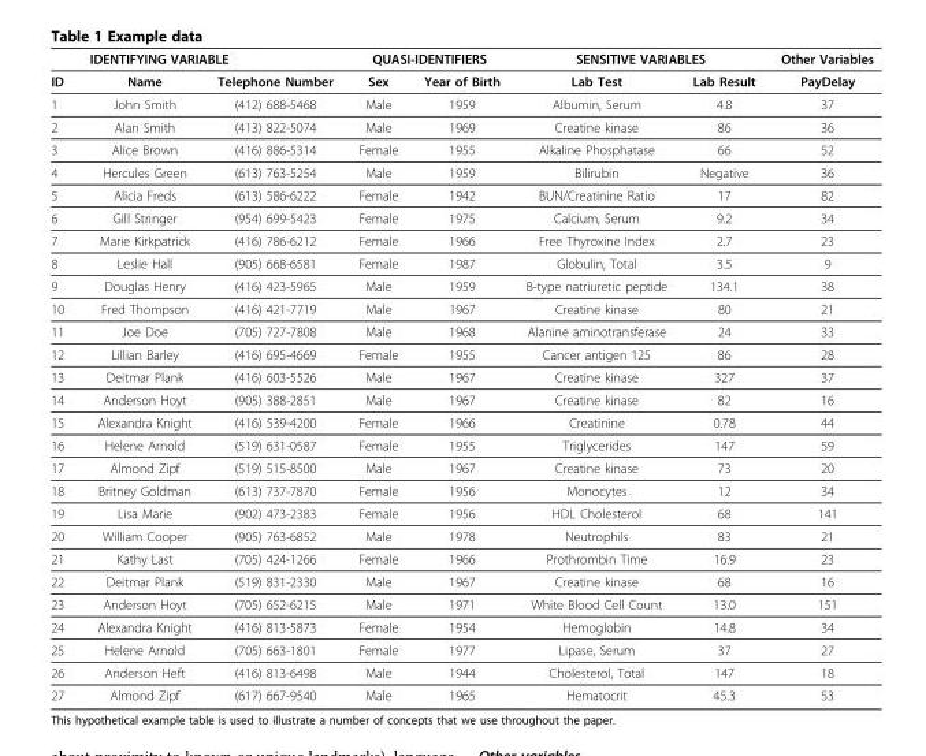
<table><thead><tr><td rowspan="2">ID</td><td colspan="2">IDENTIFYING VARIABLE</td><td colspan="2">QUASI-IDENTIFIERS</td><td colspan="2">SENSITIVE VARIABLES</td><td rowspan="2">Other Variables PayDelay</td></tr><tr><td>Name</td><td>Telephone Number</td><td>Sex</td><td>Year of Birth</td><td>Lab Test</td><td>Lab Result</td></tr></thead><tbody><tr><td>1</td><td>John Smith</td><td>(412) 688-5468</td><td>Male</td><td>1959</td><td>Albumin, Serum</td><td>4.8</td><td>37</td></tr><tr><td>2</td><td>Alan Smith</td><td>(413) 822-5074</td><td>Male</td><td>1969</td><td>Creatine kinase</td><td>86</td><td>36</td></tr><tr><td>3</td><td>Alice Brown</td><td>(416) 886-5314</td><td>Female</td><td>1955</td><td>Alkaline Phosphatase</td><td>66</td><td>52</td></tr><tr><td>4</td><td>Hercules Green</td><td>(613) 763-5254</td><td>Male</td><td>1959</td><td>Bilirubin</td><td>Negative</td><td>36</td></tr><tr><td>5</td><td>Alicia Freds</td><td>(613) 586-6222</td><td>Female</td><td>1942</td><td>BUN/Creatinine Ratio</td><td>17</td><td>82</td></tr><tr><td>6</td><td>Gill Stringer</td><td>(954) 699-5423</td><td>Female</td><td>1975</td><td>Calcium, Serum</td><td>9.2</td><td>34</td></tr><tr><td>7</td><td>Marie Kirkpatrick</td><td>(416) 786-6212</td><td>Female</td><td>1966</td><td>Free Thyroxine Index</td><td>2.7</td><td>23</td></tr><tr><td>8</td><td>Leslie Hall</td><td>(905) 668-6581</td><td>Female</td><td>1987</td><td>Globulin, Total</td><td>3.5</td><td>9</td></tr><tr><td>9</td><td>Douglas Henry</td><td>(416) 423-5965</td><td>Male</td><td>1959</td><td>B-type natriuretic peptide</td><td>134.1</td><td>38</td></tr><tr><td>10</td><td>Fred Thompson</td><td>(416) 421-7719</td><td>Male</td><td>1967</td><td>Creatine kinase</td><td>80</td><td>21</td></tr><tr><td>11</td><td>Joe Doe</td><td>(705) 727-7808</td><td>Male</td><td>1968</td><td>Alanine aminotransferase</td><td>24</td><td>33</td></tr><tr><td>12</td><td>Lillian Barley</td><td>(416) 695-4669</td><td>Female</td><td>1955</td><td>Cancer antigen 125</td><td>86</td><td>28</td></tr><tr><td>13</td><td>Deitmar Plank</td><td>(416) 603-5526</td><td>Male</td><td>1967</td><td>Creatine kinase</td><td>327</td><td>37</td></tr><tr><td>14</td><td>Anderson Hoyt</td><td>(905) 388-2851</td><td>Male</td><td>1967</td><td>Creatine kinase</td><td>82</td><td>16</td></tr><tr><td>15</td><td>Alexandra Knight</td><td>(416) 539-4200</td><td>Female</td><td>1966</td><td>Creatinine</td><td>0.78</td><td>44</td></tr><tr><td>16</td><td>Helene Arnold</td><td>(519) 631-0587</td><td>Female</td><td>1955</td><td>Triglycerides</td><td>147</td><td>59</td></tr><tr><td>17</td><td>Almond Zipf</td><td>(519) 515-8500</td><td>Male</td><td>1967</td><td>Creatine kinase</td><td>73</td><td>20</td></tr><tr><td>18</td><td>Britney Goldman</td><td>(613) 737-7870</td><td>Female</td><td>1956</td><td>Monocytes</td><td>12</td><td>34</td></tr><tr><td>19</td><td>Lisa Marie</td><td>(902) 473-2383</td><td>Female</td><td>1956</td><td>HDL Cholesterol</td><td>68</td><td>141</td></tr><tr><td>20</td><td>William Cooper</td><td>(905) 763-6852</td><td>Male</td><td>1978</td><td>Neutrophils</td><td>83</td><td>21</td></tr><tr><td>21</td><td>Kathy Last</td><td>(705) 424-1266</td><td>Female</td><td>1966</td><td>Prothrombin Time</td><td>16.9</td><td>23</td></tr><tr><td>22</td><td>Deitmar Plank</td><td>(519) 831-2330</td><td>Male</td><td>1967</td><td>Creatine kinase</td><td>68</td><td>16</td></tr><tr><td>23</td><td>Anderson Hoyt</td><td>(705) 652-6215</td><td>Male</td><td>1971</td><td>White Blood Cell Count</td><td>13.0</td><td>151</td></tr><tr><td>24</td><td>Alexandra Knight</td><td>(416) 813-5873</td><td>Female</td><td>1954</td><td>Hemoglobin</td><td>14.8</td><td>34</td></tr><tr><td>25</td><td>Helene Arnold</td><td>(705) 663-1801</td><td>Female</td><td>1977</td><td>Lipase, Serum</td><td>37</td><td>27</td></tr><tr><td>26</td><td>Anderson Heft</td><td>(416) 813-6498</td><td>Male</td><td>1944</td><td>Cholesterol, Total</td><td>147</td><td>18</td></tr><tr><td>27</td><td>Almond Zipf</td><td>(617) 667-9540</td><td>Male</td><td>1965</td><td>Hematocrit</td><td>45.3</td><td>53</td></tr></tbody></table>